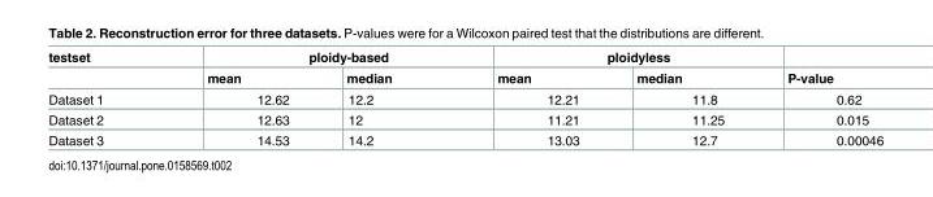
<table><thead><tr><td rowspan="2">testset</td><td colspan="2">ploidy-based</td><td colspan="2">ploidyless</td><td rowspan="2">P-value</td></tr><tr><td>mean</td><td>median</td><td>mean</td><td>median</td></tr></thead><tbody><tr><td>Dataset 1</td><td>12.62</td><td>12.2</td><td>12.21</td><td>11.8</td><td>0.62</td></tr><tr><td>Dataset 2</td><td>12.63</td><td>12</td><td>11.21</td><td>11.25</td><td>0.015</td></tr><tr><td>Dataset 3</td><td>14.53</td><td>14.2</td><td>13.03</td><td>12.7</td><td>0.00046</td></tr></tbody></table>